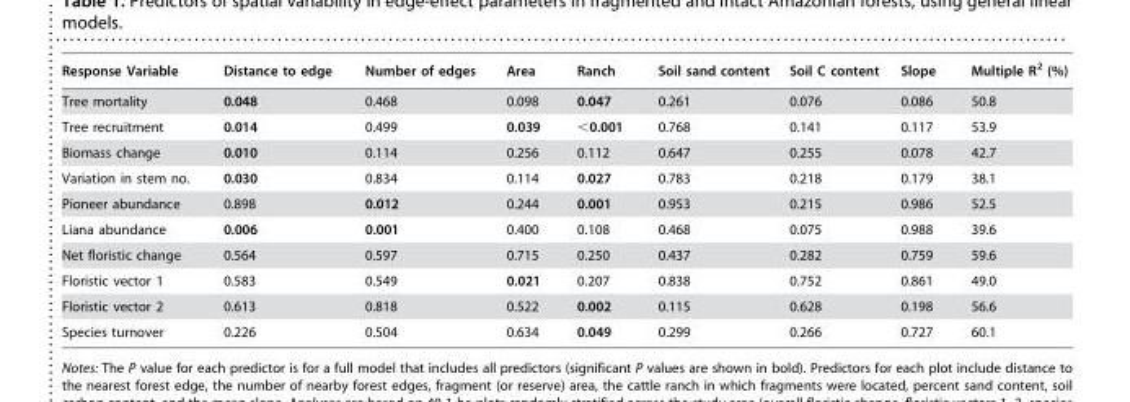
<table><thead><tr><td>Response Variable</td><td>Distance to edge</td><td>Number of edges</td><td>Area</td><td>Ranch</td><td>Soil sand content</td><td>Soil C content</td><td>Slope</td><td>Multiple R<sup>2</sup> (%)</td></tr></thead><tbody><tr><td>Tree mortality</td><td>0.048</td><td>0.468</td><td>0.098</td><td>0.047</td><td>0.261</td><td>0.076</td><td>0.086</td><td>50.8</td></tr><tr><td>Tree recruitment</td><td>0.014</td><td>0.499</td><td>0.039</td><td>&lt;0.001</td><td>0.768</td><td>0.141</td><td>0.117</td><td>53.9</td></tr><tr><td>Biomass change</td><td>0.010</td><td>0.114</td><td>0.256</td><td>0.112</td><td>0.647</td><td>0.255</td><td>0.078</td><td>42.7</td></tr><tr><td>Variation in stem no.</td><td>0.030</td><td>0.834</td><td>0.114</td><td>0.027</td><td>0.783</td><td>0.218</td><td>0.179</td><td>38.1</td></tr><tr><td>Pioneer abundance</td><td>0.898</td><td>0.012</td><td>0.244</td><td>0.001</td><td>0.953</td><td>0.215</td><td>0.986</td><td>52.5</td></tr><tr><td>Liana abundance</td><td>0.006</td><td>0.001</td><td>0.400</td><td>0.108</td><td>0.468</td><td>0.075</td><td>0.988</td><td>39.6</td></tr><tr><td>Net floristic change</td><td>0.564</td><td>0.597</td><td>0.715</td><td>0.250</td><td>0.437</td><td>0.282</td><td>0.759</td><td>59.6</td></tr><tr><td>Floristic vector 1</td><td>0.583</td><td>0.549</td><td>0.021</td><td>0.207</td><td>0.838</td><td>0.752</td><td>0.861</td><td>49.0</td></tr><tr><td>Floristic vector 2</td><td>0.613</td><td>0.818</td><td>0.522</td><td>0.002</td><td>0.115</td><td>0.628</td><td>0.198</td><td>56.6</td></tr><tr><td>Species turnover</td><td>0.226</td><td>0.504</td><td>0.634</td><td>0.049</td><td>0.299</td><td>0.266</td><td>0.727</td><td>60.1</td></tr></tbody></table>